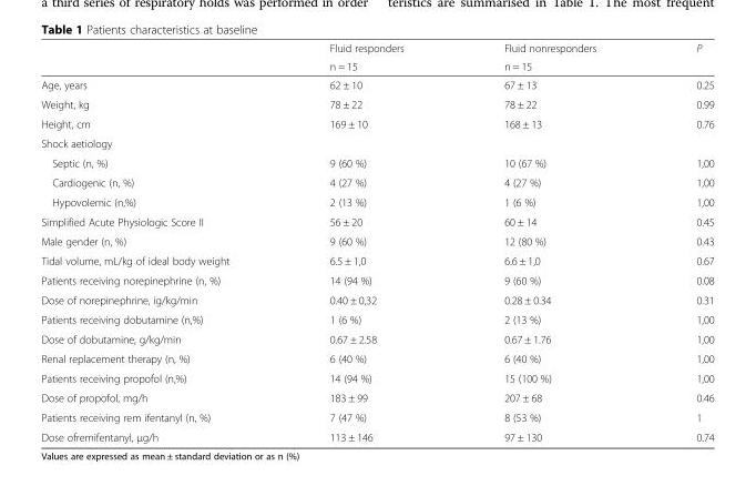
<table><thead><tr><td rowspan="2"></td><td rowspan="2">Fluid responders n = 15</td><td rowspan="2">Fluid nonresponders n = 15</td><td rowspan="2">P</td></tr><tr></tr></thead><tbody><tr><td>Age, years</td><td>62 ± 10</td><td>67 ± 13</td><td>0.25</td></tr><tr><td>Weight, kg</td><td>78 ± 22</td><td>78 ± 22</td><td>0.99</td></tr><tr><td>Height, cm</td><td>169 ± 10</td><td>168 ± 13</td><td>0.76</td></tr><tr><td colspan="4">Shock aetiology</td></tr><tr><td>Septic (n, %)</td><td>9 (60 %)</td><td>10 (67 %)</td><td>1,00</td></tr><tr><td>Cardiogenic (n, %)</td><td>4 (27 %)</td><td>4 (27 %)</td><td>1,00</td></tr><tr><td>Hypovolemic (n,%)</td><td>2 (13 %)</td><td>1 (6 %)</td><td>1,00</td></tr><tr><td>Simplified Acute Physiologic Score II</td><td>56 ± 20</td><td>60 ± 14</td><td>0.45</td></tr><tr><td>Male gender (n, %)</td><td>9 (60 %)</td><td>12 (80 %)</td><td>0.43</td></tr><tr><td>Tidal volume, mL/kg of ideal body weight</td><td>6.5 ± 1,0</td><td>6.6 ± 1,0</td><td>0.67</td></tr><tr><td>Patients receiving norepinephrine (n, %)</td><td>14 (94 %)</td><td>9 (60 %)</td><td>0.08</td></tr><tr><td>Dose of norepinephrine, ig/kg/min</td><td>0.40 ± 0,32</td><td>0.28 ± 0.34</td><td>0.31</td></tr><tr><td>Patients receiving dobutamine (n,%)</td><td>1 (6 %)</td><td>2 (13 %)</td><td>1,00</td></tr><tr><td>Dose of dobutamine, g/kg/min</td><td>0.67 ± 2.58</td><td>0.67 ± 1.76</td><td>1,00</td></tr><tr><td>Renal replacement therapy (n, %)</td><td>6 (40 %)</td><td>6 (40 %)</td><td>1,00</td></tr><tr><td>Patients receiving propofol (n,%)</td><td>14 (94 %)</td><td>15 (100 %)</td><td>1,00</td></tr><tr><td>Dose of propofol, mg/h</td><td>183 ± 99</td><td>207 ± 68</td><td>0.46</td></tr><tr><td>Patients receiving rem ifentanyl (n, %)</td><td>7 (47 %)</td><td>8 (53 %)</td><td>1</td></tr><tr><td>Dose ofremifentanyl, μg/h</td><td>113 ± 146</td><td>97 ± 130</td><td>0.74</td></tr></tbody></table>